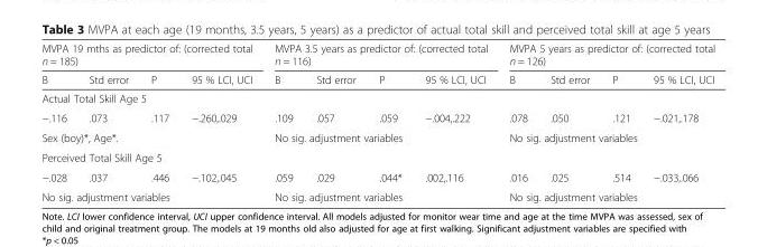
<table><thead><tr><td colspan="4">MVPA 19 mths as predictor of: (corrected total n = 185)</td><td colspan="4">MVPA 3.5 years as predictor of: (corrected total n = 116)</td><td colspan="4">MVPA 5 years as predictor of: (corrected total n = 126)</td></tr><tr><td>B</td><td>Std error</td><td>P</td><td>95 % LCI, UCI</td><td>B</td><td>Std error</td><td>P</td><td>95 % LCI, UCI</td><td>B</td><td>Std error</td><td>P</td><td>95 % LCI, UCI</td></tr></thead><tbody><tr><td colspan="12">Actual Total Skill Age 5</td></tr><tr><td>−.116</td><td>.073</td><td>.117</td><td>−.260,.029</td><td>.109</td><td>.057</td><td>.059</td><td>−.004,.222</td><td>.078</td><td>.050</td><td>.121</td><td>−.021,.178</td></tr><tr><td colspan="4">Sex (boy)*, Age*.</td><td colspan="4">No sig. adjustment variables</td><td colspan="4">No sig. adjustment variables</td></tr><tr><td colspan="12">Perceived Total Skill Age 5</td></tr><tr><td>−.028</td><td>.037</td><td>.446</td><td>−.102,.045</td><td>.059</td><td>.029</td><td>.044*</td><td>.002,.116</td><td>.016</td><td>.025</td><td>.514</td><td>−.033,.066</td></tr><tr><td colspan="4">No sig. adjustment variables</td><td colspan="4">No sig. adjustment variables</td><td colspan="4">No sig. adjustment variables</td></tr></tbody></table>